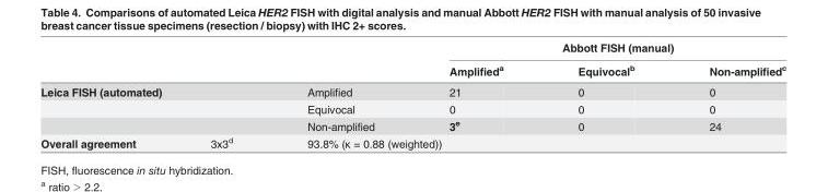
<table><thead><tr><td rowspan="2"></td><td rowspan="2"></td><td rowspan="2"></td><td colspan="3">Abbott FISH (manual)</td></tr><tr><td>Amplified<sup>a</sup></td><td>Equivocal<sup>b</sup></td><td>Non-amplified<sup>c</sup></td></tr></thead><tbody><tr><td rowspan="3" colspan="2">Leica FISH (automated)</td><td>Amplified</td><td>21</td><td>0</td><td>0</td></tr><tr><td>Equivocal</td><td>0</td><td>0</td><td>0</td></tr><tr><td>Non-amplified</td><td>3<sup>e</sup></td><td>0</td><td>24</td></tr><tr><td>Overall agreement</td><td>3x3<sup>d</sup></td><td colspan="4">93.8% (κ = 0.88 (weighted))</td></tr></tbody></table>